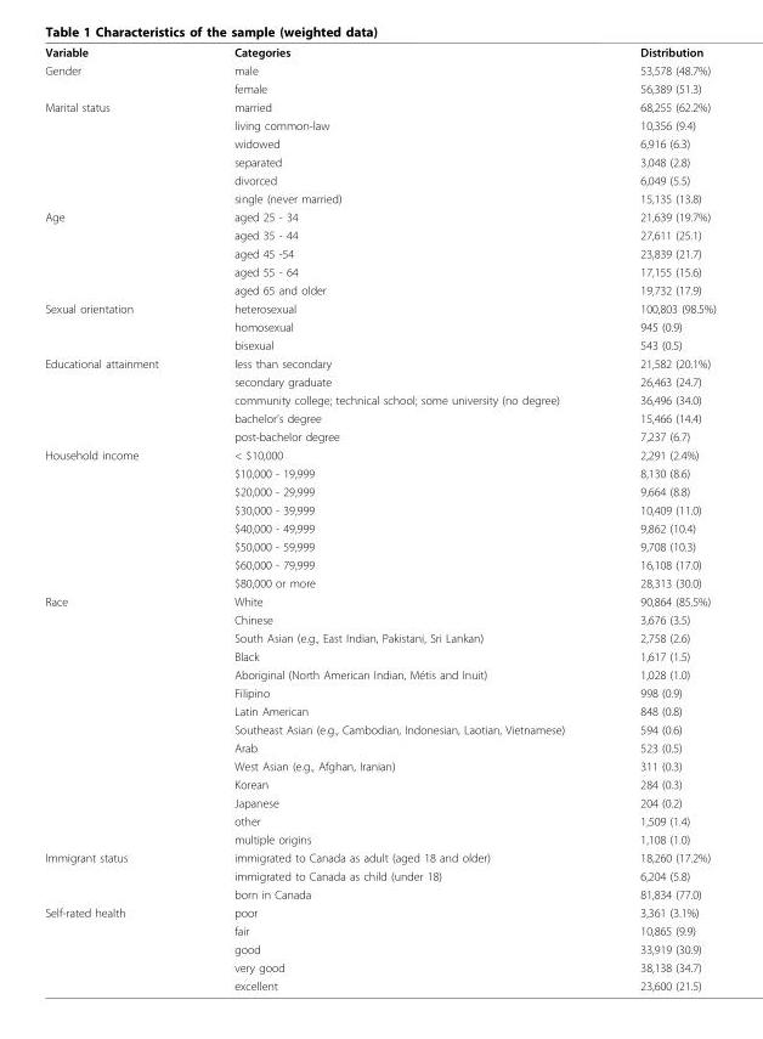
<table><tbody><tr><td>Variable</td><td>Categories</td><td>Distribution</td></tr><tr><td rowspan="2">Gender</td><td>male</td><td>53,578 (48.7%)</td></tr><tr><td>female</td><td>56,389 (51.3)</td></tr><tr><td rowspan="6">Marital status</td><td>married</td><td>68,255 (62.2%)</td></tr><tr><td>living common-law</td><td>10,356 (9.4)</td></tr><tr><td>widowed</td><td>6,916 (6.3)</td></tr><tr><td>separated</td><td>3,048 (2.8)</td></tr><tr><td>divorced</td><td>6,049 (5.5)</td></tr><tr><td>single (never married)</td><td>15,135 (13.8)</td></tr><tr><td rowspan="5">Age</td><td>aged 25 - 34</td><td>21,639 (19.7%)</td></tr><tr><td>aged 35 - 44</td><td>27,611 (25.1)</td></tr><tr><td>aged 45 -54</td><td>23,839 (21.7)</td></tr><tr><td>aged 55 - 64</td><td>17,155 (15.6)</td></tr><tr><td>aged 65 and older</td><td>19,732 (17.9)</td></tr><tr><td rowspan="3">Sexual orientation</td><td>heterosexual</td><td>100,803 (98.5%)</td></tr><tr><td>homosexual</td><td>945 (0.9)</td></tr><tr><td>bisexual</td><td>543 (0.5)</td></tr><tr><td rowspan="5">Educational attainment</td><td>less than secondary</td><td>21,582 (20.1%)</td></tr><tr><td>secondary graduate</td><td>26,463 (24.7)</td></tr><tr><td>community college; technical school; some university (no degree)</td><td>36,496 (34.0)</td></tr><tr><td>bachelor’s degree</td><td>15,466 (14.4)</td></tr><tr><td>post-bachelor degree</td><td>7,237 (6.7)</td></tr><tr><td rowspan="8">Household income</td><td>&lt; $10,000</td><td>2,291 (2.4%)</td></tr><tr><td>$10,000 - 19,999</td><td>8,130 (8.6)</td></tr><tr><td>$20,000 - 29,999</td><td>9,664 (8.8)</td></tr><tr><td>$30,000 - 39,999</td><td>10,409 (11.0)</td></tr><tr><td>$40,000 - 49,999</td><td>9,862 (10.4)</td></tr><tr><td>$50,000 - 59,999</td><td>9,708 (10.3)</td></tr><tr><td>$60,000 - 79,999</td><td>16,108 (17.0)</td></tr><tr><td>$80,000 or more</td><td>28,313 (30.0)</td></tr><tr><td rowspan="14">Race</td><td>White</td><td>90,864 (85.5%)</td></tr><tr><td>Chinese</td><td>3,676 (3.5)</td></tr><tr><td>South Asian (e.g., East Indian, Pakistani, Sri Lankan)</td><td>2,758 (2.6)</td></tr><tr><td>Black</td><td>1,617 (1.5)</td></tr><tr><td>Aboriginal (North American Indian, Métis and Inuit)</td><td>1,028 (1.0)</td></tr><tr><td>Filipino</td><td>998 (0.9)</td></tr><tr><td>Latin American</td><td>848 (0.8)</td></tr><tr><td>Southeast Asian (e.g., Cambodian, Indonesian, Laotian, Vietnamese)</td><td>594 (0.6)</td></tr><tr><td>Arab</td><td>523 (0.5)</td></tr><tr><td>West Asian (e.g., Afghan, Iranian)</td><td>311 (0.3)</td></tr><tr><td>Korean</td><td>284 (0.3)</td></tr><tr><td>Japanese</td><td>204 (0.2)</td></tr><tr><td>other</td><td>1,509 (1.4)</td></tr><tr><td>multiple origins</td><td>1,108 (1.0)</td></tr><tr><td rowspan="3">Immigrant status</td><td>immigrated to Canada as adult (aged 18 and older)</td><td>18,260 (17.2%)</td></tr><tr><td>immigrated to Canada as child (under 18)</td><td>6,204 (5.8)</td></tr><tr><td>born in Canada</td><td>81,834 (77.0)</td></tr><tr><td rowspan="5">Self-rated health</td><td>poor</td><td>3,361 (3.1%)</td></tr><tr><td>fair</td><td>10,865 (9.9)</td></tr><tr><td>good</td><td>33,919 (30.9)</td></tr><tr><td>very good</td><td>38,138 (34.7)</td></tr><tr><td>excellent</td><td>23,600 (21.5)</td></tr></tbody></table>